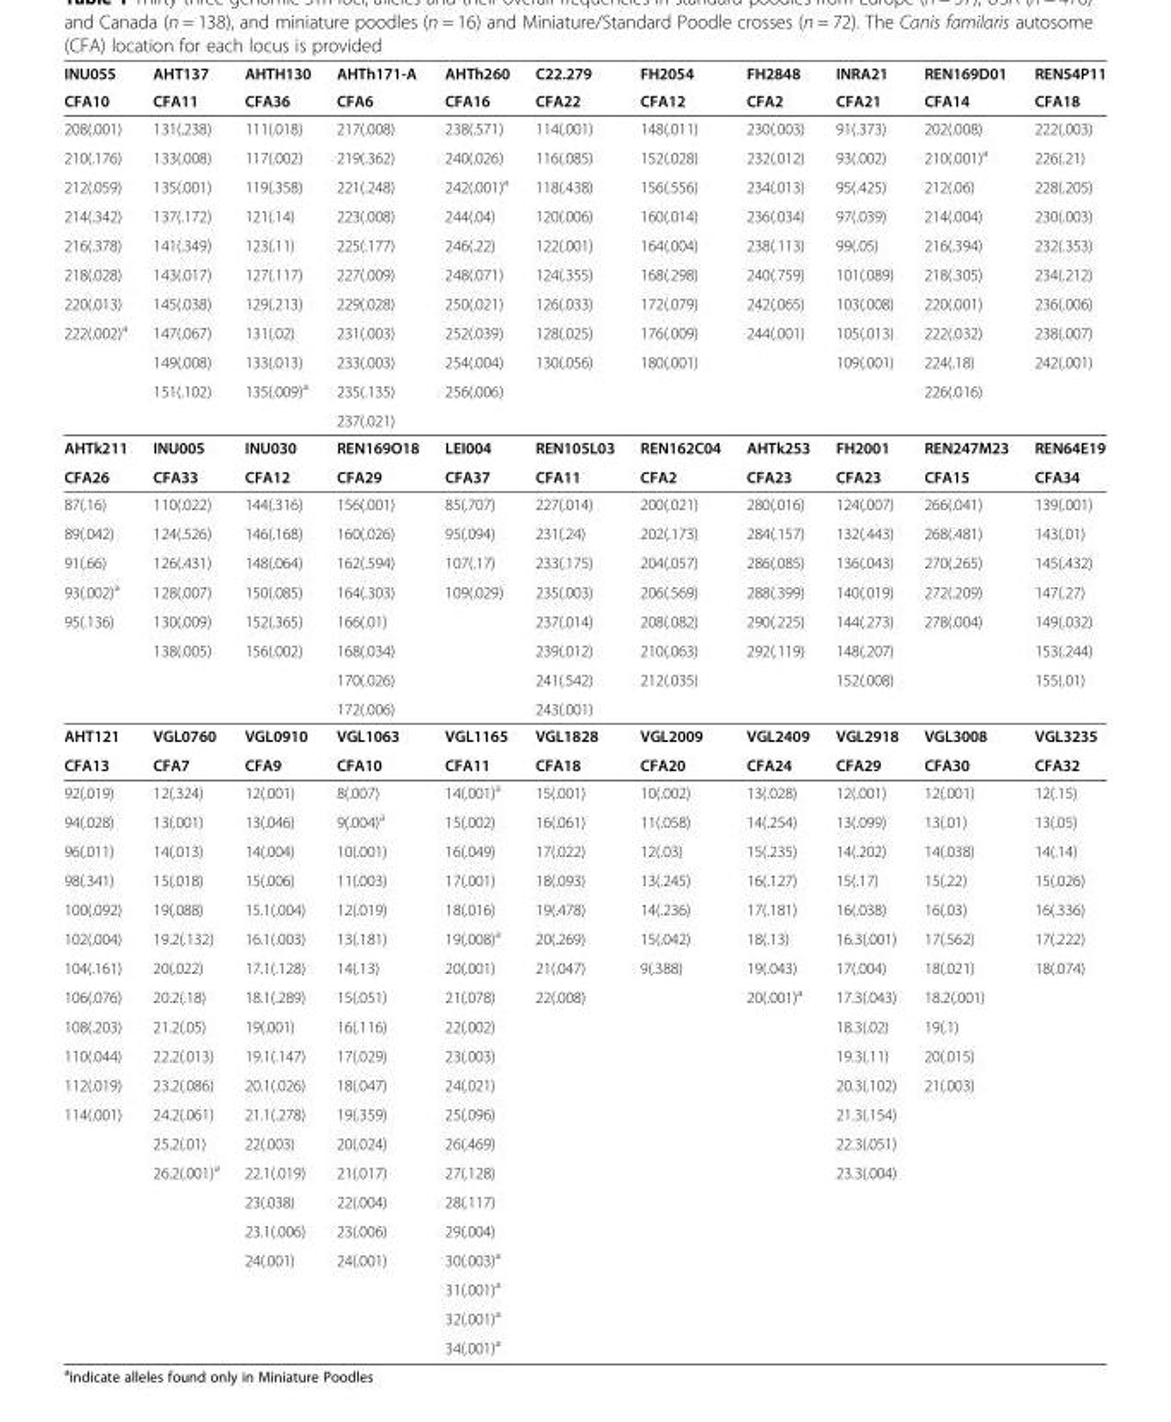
<table><thead><tr><td rowspan="2">INU055 CFA10</td><td rowspan="2">AHT137 CFA11</td><td rowspan="2">AHTH130 CFA36</td><td rowspan="2">AHTh171-A CFA6</td><td rowspan="2">AHTh260 CFA16</td><td rowspan="2">C22.279 CFA22</td><td rowspan="2">FH2054 CFA12</td><td rowspan="2">FH2848 CFA2</td><td rowspan="2">INRA21 CFA21</td><td rowspan="2">REN169D01 CFA14</td><td rowspan="2">REN54P11 CFA18</td></tr><tr></tr></thead><tbody><tr><td>208(.001)</td><td>131(.238)</td><td>111(.018)</td><td>217(.008)</td><td>238(.571)</td><td>114(.001)</td><td>148(.011)</td><td>230(.003)</td><td>91(.373)</td><td>202(.008)</td><td>222(.003)</td></tr><tr><td>210(.176)</td><td>133(.008)</td><td>117(.002)</td><td>219(.362)</td><td>240(.026)</td><td>116(.085)</td><td>152(.028)</td><td>232(.012)</td><td>93(.002)</td><td>210(.001)<sup>a</sup></td><td>226(.21)</td></tr><tr><td>212(.059)</td><td>135(.001)</td><td>119(.358)</td><td>221(.248)</td><td>242(.001)<sup>a</sup></td><td>118(.438)</td><td>156(.556)</td><td>234(.013)</td><td>95(.425)</td><td>212(.06)</td><td>228(.205)</td></tr><tr><td>214(.342)</td><td>137(.172)</td><td>121(.14)</td><td>223(.008)</td><td>244(.04)</td><td>120(.006)</td><td>160(.014)</td><td>236(.034)</td><td>97(.039)</td><td>214(.004)</td><td>230(.003)</td></tr><tr><td>216(.378)</td><td>141(.349)</td><td>123(.11)</td><td>225(.177)</td><td>246(.22)</td><td>122(.001)</td><td>164(.004)</td><td>238(.113)</td><td>99(.05)</td><td>216(.394)</td><td>232(.353)</td></tr><tr><td>218(.028)</td><td>143(.017)</td><td>127(.117)</td><td>227(.009)</td><td>248(.071)</td><td>124(.355)</td><td>168(.298)</td><td>240(.759)</td><td>101(.089)</td><td>218(.305)</td><td>234(.212)</td></tr><tr><td>220(.013)</td><td>145(.038)</td><td>129(.213)</td><td>229(.028)</td><td>250(.021)</td><td>126(.033)</td><td>172(.079)</td><td>242(.065)</td><td>103(.008)</td><td>220(.001)</td><td>236(.006)</td></tr><tr><td rowspan="4">222(.002)<sup>a</sup></td><td>147(.067)</td><td>131(.02)</td><td>231(.003)</td><td>252(.039)</td><td>128(.025)</td><td>176(.009)</td><td rowspan="4">244(.001)</td><td>105(.013)</td><td>222(.032)</td><td>238(.007)</td></tr><tr><td>149(.008)</td><td>133(.013)</td><td>233(.003)</td><td>254(.004)</td><td rowspan="3">130(.056)</td><td rowspan="3">180(.001)</td><td rowspan="3">109(.001)</td><td>224(.18)</td><td rowspan="3">242(.001)</td></tr><tr><td rowspan="2">151(.102)</td><td rowspan="2">135(.009)<sup>a</sup></td><td>235(.135)</td><td rowspan="2">256(.006)</td><td rowspan="2">226(.016)</td></tr><tr><td>237(.021)</td></tr><tr><td>AHTk211</td><td>INU005</td><td>INU030</td><td>REN169O18</td><td>LEI004</td><td>REN105L03</td><td>REN162C04</td><td>AHTk253</td><td>FH2001</td><td>REN247M23</td><td>REN64E19</td></tr><tr><td>CFA26</td><td>CFA33</td><td>CFA12</td><td>CFA29</td><td>CFA37</td><td>CFA11</td><td>CFA2</td><td>CFA23</td><td>CFA23</td><td>CFA15</td><td>CFA34</td></tr><tr><td>87(.16)</td><td>110(.022)</td><td>144(.316)</td><td>156(.001)</td><td>85(.707)</td><td>227(.014)</td><td>200(.021)</td><td>280(.016)</td><td>124(.007)</td><td>266(.041)</td><td>139(.001)</td></tr><tr><td>89(.042)</td><td>124(.526)</td><td>146(.168)</td><td>160(.026)</td><td>95(.094)</td><td>231(.24)</td><td>202(.173)</td><td>284(.157)</td><td>132(.443)</td><td>268(.481)</td><td>143(.01)</td></tr><tr><td>91(.66)</td><td>126(.431)</td><td>148(.064)</td><td>162(.594)</td><td>107(.17)</td><td>233(.175)</td><td>204(.057)</td><td>286(.085)</td><td>136(.043)</td><td>270(.265)</td><td>145(.432)</td></tr><tr><td>93(.002)<sup>a</sup></td><td>128(.007)</td><td>150(.085)</td><td>164(.303)</td><td>109(.029)</td><td>235(.003)</td><td>206(.569)</td><td>288(.399)</td><td>140(.019)</td><td>272(.209)</td><td>147(.27)</td></tr><tr><td rowspan="4">95(.136)</td><td>130(.009)</td><td>152(.365)</td><td>166(.01)</td><td></td><td>237(.014)</td><td>208(.082)</td><td>290(.225)</td><td>144(.273)</td><td>278(.004)</td><td>149(.032)</td></tr><tr><td>138(.005)</td><td>156(.002)</td><td>168(.034)</td><td></td><td>239(.012)</td><td>210(.063)</td><td>292(.119)</td><td>148(.207)</td><td></td><td>153(.244)</td></tr><tr><td></td><td></td><td>170(.026)</td><td></td><td>241(.542)</td><td>212(.035)</td><td></td><td>152(.008)</td><td></td><td>155(.01)</td></tr><tr><td></td><td></td><td>172(.006)</td><td></td><td>243(.001)</td><td></td><td></td><td></td><td></td><td></td></tr><tr><td>AHT121</td><td>VGL0760</td><td>VGL0910</td><td>VGL1063</td><td>VGL1165</td><td>VGL1828</td><td>VGL2009</td><td>VGL2409</td><td>VGL2918</td><td>VGL3008</td><td>VGL3235</td></tr><tr><td>CFA13</td><td>CFA7</td><td>CFA9</td><td>CFA10</td><td>CFA11</td><td>CFA18</td><td>CFA20</td><td>CFA24</td><td>CFA29</td><td>CFA30</td><td>CFA32</td></tr><tr><td>92(.019)</td><td>12(.324)</td><td>12(.001)</td><td>8(.007)</td><td>14(.001)<sup>a</sup></td><td>15(.001)</td><td>10(.002)</td><td>13(.028)</td><td>12(.001)</td><td>12(.001)</td><td>12(.15)</td></tr><tr><td>94(.028)</td><td>13(.001)</td><td>13(.046)</td><td>9(.004)<sup>a</sup></td><td>15(.002)</td><td>16(.061)</td><td>11(.058)</td><td>14(.254)</td><td>13(.099)</td><td>13(.01)</td><td>13(.05)</td></tr><tr><td>96(.011)</td><td>14(.013)</td><td>14(.004)</td><td>10(.001)</td><td>16(.049)</td><td>17(.022)</td><td>12(.03)</td><td>15(.235)</td><td>14(.202)</td><td>14(.038)</td><td>14(.14)</td></tr><tr><td>98(.341)</td><td>15(.018)</td><td>15(.006)</td><td>11(.003)</td><td>17(.001)</td><td>18(.093)</td><td>13(.245)</td><td>16(.127)</td><td>15(.17)</td><td>15(.22)</td><td>15(.026)</td></tr><tr><td>100(.092)</td><td>19(.088)</td><td>15.1(.004)</td><td>12(.019)</td><td>18(.016)</td><td>19(.478)</td><td>14(.236)</td><td>17(.181)</td><td>16(.038)</td><td>16(.03)</td><td>16(.336)</td></tr><tr><td>102(.004)</td><td>19.2(.132)</td><td>16.1(.003)</td><td>13(.181)</td><td>19(.008)<sup>a</sup></td><td>20(.269)</td><td>15(.042)</td><td>18(.13)</td><td>16.3(.001)</td><td>17(.562)</td><td>17(.222)</td></tr><tr><td>104(.161)</td><td>20(.022)</td><td>17.1(.128)</td><td>14(.13)</td><td>20(.001)</td><td>21(.047)</td><td>9(.388)</td><td>19(.043)</td><td>17(.004)</td><td>18(.021)</td><td>18(.074)</td></tr><tr><td>106(.076)</td><td>20.2(.18)</td><td>18.1(.289)</td><td>15(.051)</td><td>21(.078)</td><td>22(.008)</td><td></td><td>20(.001)<sup>a</sup></td><td>17.3(.043)</td><td>18.2(.001)</td><td></td></tr><tr><td>108(.203)</td><td>21.2(.05)</td><td>19(.001)</td><td>16(.116)</td><td>22(.002)</td><td></td><td></td><td></td><td>18.3(.02)</td><td>19(.1)</td><td></td></tr><tr><td>110(.044)</td><td>22.2(.013)</td><td>19.1(.147)</td><td>17(.029)</td><td>23(.003)</td><td></td><td></td><td></td><td>19.3(.11)</td><td>20(.015)</td><td></td></tr><tr><td>112(.019)</td><td>23.2(.086)</td><td>20.1(.026)</td><td>18(.047)</td><td>24(.021)</td><td></td><td></td><td></td><td>20.3(.102)</td><td>21(.003)</td><td></td></tr><tr><td rowspan="9">114(.001)</td><td>24.2(.061)</td><td>21.1(.278)</td><td>19(.359)</td><td>25(.096)</td><td></td><td></td><td></td><td>21.3(.154)</td><td></td><td></td></tr><tr><td>25.2(.01)</td><td>22(.003)</td><td>20(.024)</td><td>26(.469)</td><td></td><td></td><td></td><td>22.3(.051)</td><td></td><td></td></tr><tr><td>26.2(.001)<sup>a</sup></td><td>22.1(.019)</td><td>21(.017)</td><td>27(.128)</td><td></td><td></td><td></td><td>23.3(.004)</td><td></td><td></td></tr><tr><td></td><td>23(.038)</td><td>22(.004)</td><td>28(.117)</td><td></td><td></td><td></td><td></td><td></td><td></td></tr><tr><td></td><td>23.1(.006)</td><td>23(.006)</td><td>29(.004)</td><td></td><td></td><td></td><td></td><td></td><td></td></tr><tr><td></td><td>24(.001)</td><td>24(.001)</td><td>30(.003)<sup>a</sup></td><td></td><td></td><td></td><td></td><td></td><td></td></tr><tr><td></td><td></td><td></td><td>31(.001)<sup>a</sup></td><td></td><td></td><td></td><td></td><td></td><td></td></tr><tr><td></td><td></td><td></td><td>32(.001)<sup>a</sup></td><td></td><td></td><td></td><td></td><td></td><td></td></tr><tr><td></td><td></td><td></td><td>34(.001)<sup>a</sup></td><td></td><td></td><td></td><td></td><td></td><td></td></tr></tbody></table>